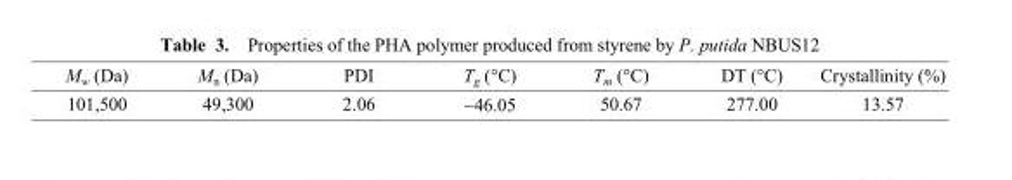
<table><thead><tr><td>M<sub>w</sub> (Da)</td><td>M<sub>n</sub> (Da)</td><td>PDI</td><td>T<sub>g</sub> (°C)</td><td>T<sub>m</sub> (°C)</td><td>DT (°C)</td><td>Crystallinity (%)</td></tr></thead><tbody><tr><td>101,500</td><td>49,300</td><td>2.06</td><td>−46.05</td><td>50.67</td><td>277.00</td><td>13.57</td></tr></tbody></table>